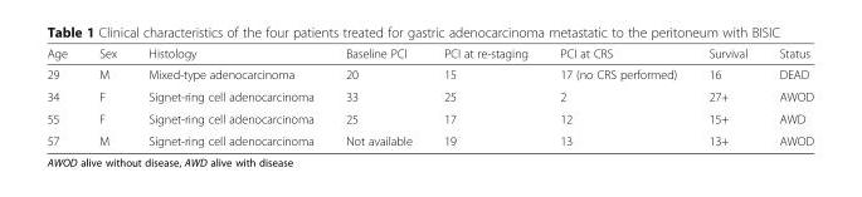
<table><thead><tr><td>Age</td><td>Sex</td><td>Histology</td><td>Baseline PCI</td><td>PCI at re-staging</td><td>PCI at CRS</td><td>Survival</td><td>Status</td></tr></thead><tbody><tr><td>29</td><td>M</td><td>Mixed-type adenocarcinoma</td><td>20</td><td>15</td><td>17 (no CRS performed)</td><td>16</td><td>DEAD</td></tr><tr><td>34</td><td>F</td><td>Signet-ring cell adenocarcinoma</td><td>33</td><td>25</td><td>2</td><td>27+</td><td>AWOD</td></tr><tr><td>55</td><td>F</td><td>Signet-ring cell adenocarcinoma</td><td>25</td><td>17</td><td>12</td><td>15+</td><td>AWD</td></tr><tr><td>57</td><td>M</td><td>Signet-ring cell adenocarcinoma</td><td>Not available</td><td>19</td><td>13</td><td>13+</td><td>AWOD</td></tr></tbody></table>